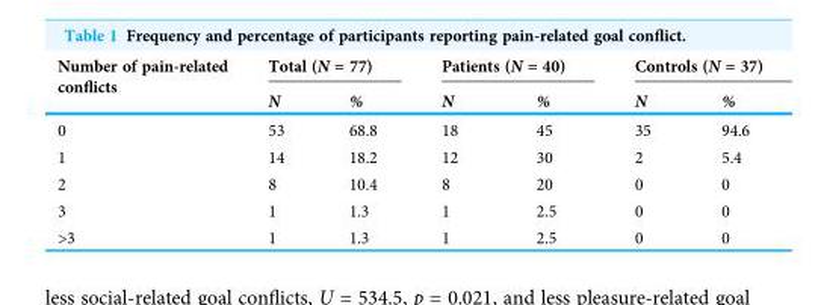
<table><thead><tr><td rowspan="2">Number of pain-related conflicts</td><td colspan="2">Total (N = 77)</td><td colspan="2">Patients (N = 40)</td><td colspan="2">Controls (N = 37)</td></tr><tr><td>N</td><td>%</td><td>N</td><td>%</td><td>N</td><td>%</td></tr></thead><tbody><tr><td>0</td><td>53</td><td>68.8</td><td>18</td><td>45</td><td>35</td><td>94.6</td></tr><tr><td>1</td><td>14</td><td>18.2</td><td>12</td><td>30</td><td>2</td><td>5.4</td></tr><tr><td>2</td><td>8</td><td>10.4</td><td>8</td><td>20</td><td>0</td><td>0</td></tr><tr><td>3</td><td>1</td><td>1.3</td><td>1</td><td>2.5</td><td>0</td><td>0</td></tr><tr><td>&gt;3</td><td>1</td><td>1.3</td><td>1</td><td>2.5</td><td>0</td><td>0</td></tr></tbody></table>